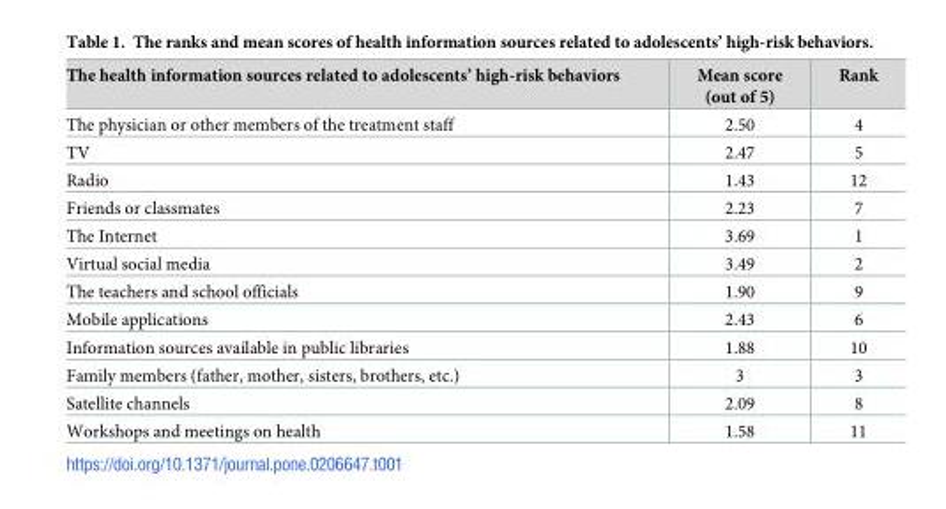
<table><thead><tr><td>The health information sources related to adolescents’ high-risk behaviors</td><td>Mean score (out of 5)</td><td>Rank</td></tr></thead><tbody><tr><td>The physician or other members of the treatment staff</td><td>2.50</td><td>4</td></tr><tr><td>TV</td><td>2.47</td><td>5</td></tr><tr><td>Radio</td><td>1.43</td><td>12</td></tr><tr><td>Friends or classmates</td><td>2.23</td><td>7</td></tr><tr><td>The Internet</td><td>3.69</td><td>1</td></tr><tr><td>Virtual social media</td><td>3.49</td><td>2</td></tr><tr><td>The teachers and school officials</td><td>1.90</td><td>9</td></tr><tr><td>Mobile applications</td><td>2.43</td><td>6</td></tr><tr><td>Information sources available in public libraries</td><td>1.88</td><td>10</td></tr><tr><td>Family members (father, mother, sisters, brothers, etc.)</td><td>3</td><td>3</td></tr><tr><td>Satellite channels</td><td>2.09</td><td>8</td></tr><tr><td>Workshops and meetings on health</td><td>1.58</td><td>11</td></tr></tbody></table>